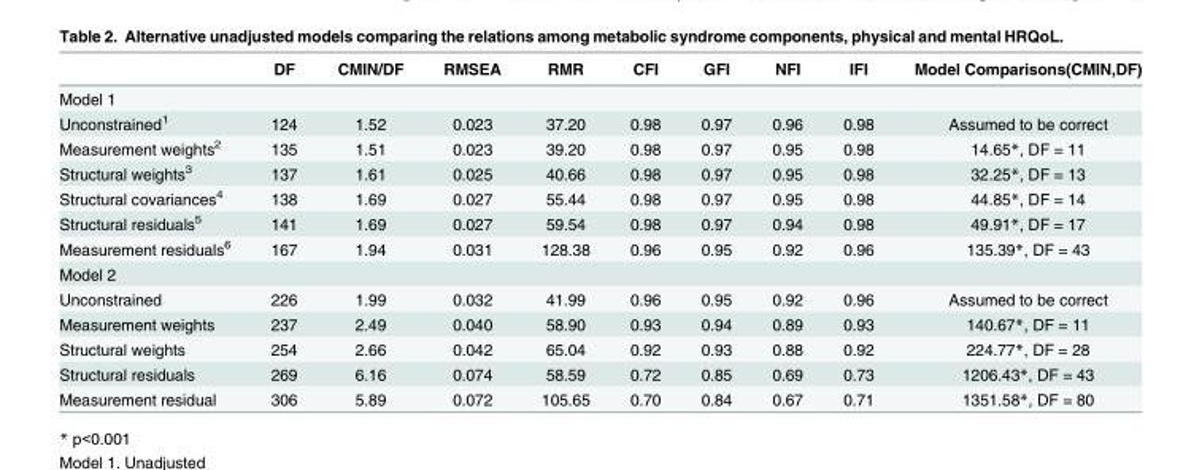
<table><thead><tr><td></td><td>DF</td><td>CMIN/DF</td><td>RMSEA</td><td>RMR</td><td>CFI</td><td>GFI</td><td>NFI</td><td>IFI</td><td>Model Comparisons(CMIN,DF)</td></tr></thead><tbody><tr><td colspan="10">Model 1</td></tr><tr><td>Unconstrained<sup>1</sup></td><td>124</td><td>1.52</td><td>0.023</td><td>37.20</td><td>0.98</td><td>0.97</td><td>0.96</td><td>0.98</td><td>Assumed to be correct</td></tr><tr><td>Measurement weights<sup>2</sup></td><td>135</td><td>1.51</td><td>0.023</td><td>39.20</td><td>0.98</td><td>0.97</td><td>0.95</td><td>0.98</td><td>14.65*, DF = 11</td></tr><tr><td>Structural weights<sup>3</sup></td><td>137</td><td>1.61</td><td>0.025</td><td>40.66</td><td>0.98</td><td>0.97</td><td>0.95</td><td>0.98</td><td>32.25*, DF = 13</td></tr><tr><td>Structural covariances<sup>4</sup></td><td>138</td><td>1.69</td><td>0.027</td><td>55.44</td><td>0.98</td><td>0.97</td><td>0.95</td><td>0.98</td><td>44.85*, DF = 14</td></tr><tr><td>Structural residuals<sup>5</sup></td><td>141</td><td>1.69</td><td>0.027</td><td>59.54</td><td>0.98</td><td>0.97</td><td>0.94</td><td>0.98</td><td>49.91*, DF = 17</td></tr><tr><td>Measurement residuals<sup>6</sup></td><td>167</td><td>1.94</td><td>0.031</td><td>128.38</td><td>0.96</td><td>0.95</td><td>0.92</td><td>0.96</td><td>135.39*, DF = 43</td></tr><tr><td colspan="10">Model 2</td></tr><tr><td>Unconstrained</td><td>226</td><td>1.99</td><td>0.032</td><td>41.99</td><td>0.96</td><td>0.95</td><td>0.92</td><td>0.96</td><td>Assumed to be correct</td></tr><tr><td>Measurement weights</td><td>237</td><td>2.49</td><td>0.040</td><td>58.90</td><td>0.93</td><td>0.94</td><td>0.89</td><td>0.93</td><td>140.67*, DF = 11</td></tr><tr><td>Structural weights</td><td>254</td><td>2.66</td><td>0.042</td><td>65.04</td><td>0.92</td><td>0.93</td><td>0.88</td><td>0.92</td><td>224.77*, DF = 28</td></tr><tr><td>Structural residuals</td><td>269</td><td>6.16</td><td>0.074</td><td>58.59</td><td>0.72</td><td>0.85</td><td>0.69</td><td>0.73</td><td>1206.43*, DF = 43</td></tr><tr><td>Measurement residual</td><td>306</td><td>5.89</td><td>0.072</td><td>105.65</td><td>0.70</td><td>0.84</td><td>0.67</td><td>0.71</td><td>1351.58*, DF = 80</td></tr></tbody></table>